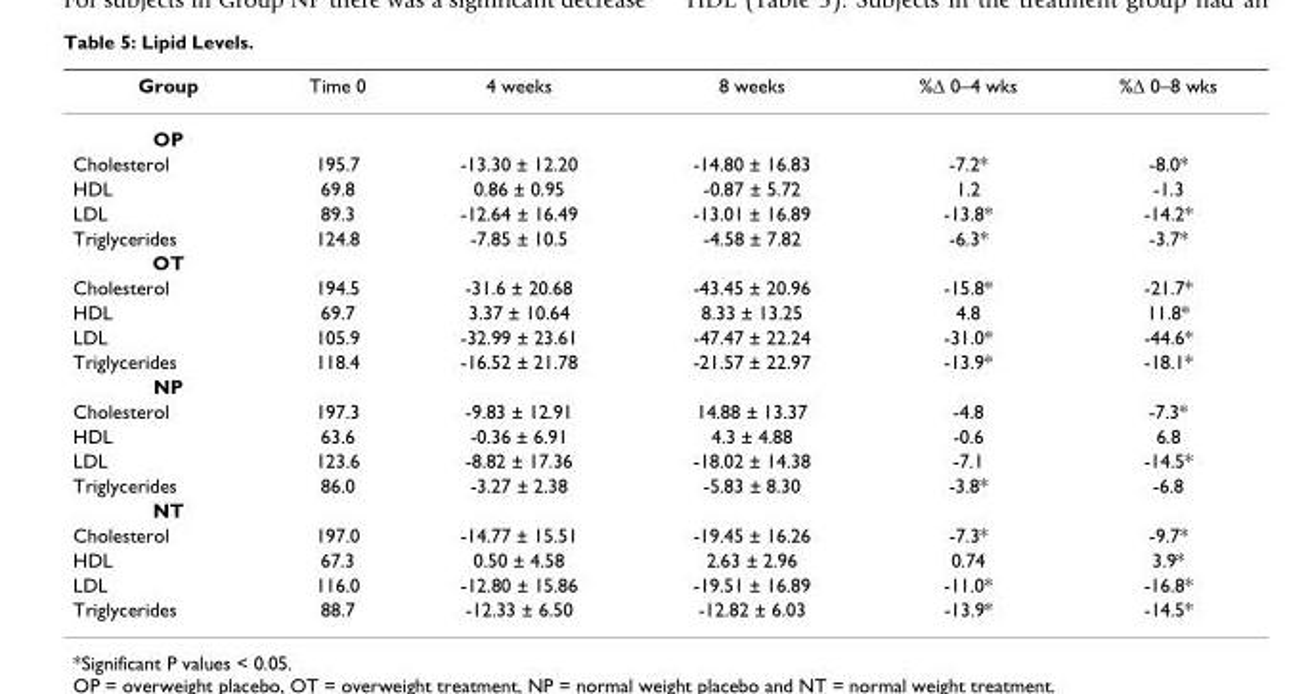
<table><thead><tr><td>Group</td><td>Time 0</td><td>4 weeks</td><td>8 weeks</td><td>%∆ 0–4 wks</td><td>%∆ 0–8 wks</td></tr></thead><tbody><tr><td colspan="6">OP</td></tr><tr><td>Cholesterol</td><td>195.7</td><td>-13.30 ± 12.20</td><td>-14.80 ± 16.83</td><td>-7.2*</td><td>-8.0*</td></tr><tr><td>HDL</td><td>69.8</td><td>0.86 ± 0.95</td><td>-0.87 ± 5.72</td><td>1.2</td><td>-1.3</td></tr><tr><td>LDL</td><td>89.3</td><td>-12.64 ± 16.49</td><td>-13.01 ± 16.89</td><td>-13.8*</td><td>-14.2*</td></tr><tr><td>Triglycerides</td><td>124.8</td><td>-7.85 ± 10.5</td><td>-4.58 ± 7.82</td><td>-6.3*</td><td>-3.7*</td></tr><tr><td colspan="6">OT</td></tr><tr><td>Cholesterol</td><td>194.5</td><td>-31.6 ± 20.68</td><td>-43.45 ± 20.96</td><td>-15.8*</td><td>-21.7*</td></tr><tr><td>HDL</td><td>69.7</td><td>3.37 ± 10.64</td><td>8.33 ± 13.25</td><td>4.8</td><td>11.8*</td></tr><tr><td>LDL</td><td>105.9</td><td>-32.99 ± 23.61</td><td>-47.47 ± 22.24</td><td>-31.0*</td><td>-44.6*</td></tr><tr><td>Triglycerides</td><td>118.4</td><td>-16.52 ± 21.78</td><td>-21.57 ± 22.97</td><td>-13.9*</td><td>-18.1*</td></tr><tr><td colspan="6">NP</td></tr><tr><td>Cholesterol</td><td>197.3</td><td>-9.83 ± 12.91</td><td>14.88 ± 13.37</td><td>-4.8</td><td>-7.3*</td></tr><tr><td>HDL</td><td>63.6</td><td>-0.36 ± 6.91</td><td>4.3 ± 4.88</td><td>-0.6</td><td>6.8</td></tr><tr><td>LDL</td><td>123.6</td><td>-8.82 ± 17.36</td><td>-18.02 ± 14.38</td><td>-7.1</td><td>-14.5*</td></tr><tr><td>Triglycerides</td><td>86.0</td><td>-3.27 ± 2.38</td><td>-5.83 ± 8.30</td><td>-3.8*</td><td>-6.8</td></tr><tr><td colspan="6">NT</td></tr><tr><td>Cholesterol</td><td>197.0</td><td>-14.77 ± 15.51</td><td>-19.45 ± 16.26</td><td>-7.3*</td><td>-9.7*</td></tr><tr><td>HDL</td><td>67.3</td><td>0.50 ± 4.58</td><td>2.63 ± 2.96</td><td>0.74</td><td>3.9*</td></tr><tr><td>LDL</td><td>116.0</td><td>-12.80 ± 15.86</td><td>-19.51 ± 16.89</td><td>-11.0*</td><td>-16.8*</td></tr><tr><td>Triglycerides</td><td>88.7</td><td>-12.33 ± 6.50</td><td>-12.82 ± 6.03</td><td>-13.9*</td><td>-14.5*</td></tr></tbody></table>